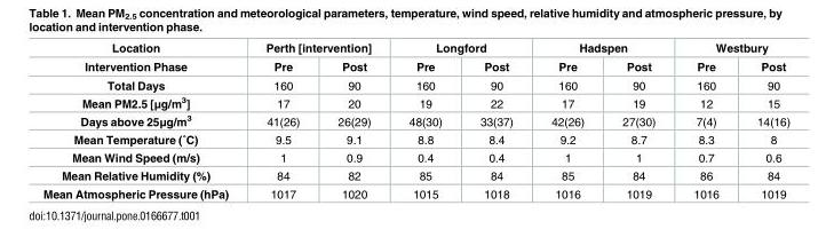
<table><thead><tr><td rowspan="2">Location Intervention Phase</td><td colspan="2">Perth [intervention]</td><td colspan="2">Longford</td><td colspan="2">Hadspen</td><td colspan="2">Westbury</td></tr><tr><td>Pre</td><td>Post</td><td>Pre</td><td>Post</td><td>Pre</td><td>Post</td><td>Pre</td><td>Post</td></tr></thead><tbody><tr><td>Total Days</td><td>160</td><td>90</td><td>160</td><td>90</td><td>160</td><td>90</td><td>160</td><td>90</td></tr><tr><td>Mean PM2.5 [μg/m<sup>3</sup>]</td><td>17</td><td>20</td><td>19</td><td>22</td><td>17</td><td>19</td><td>12</td><td>15</td></tr><tr><td>Days above 25μg/m<sup>3</sup></td><td>41(26)</td><td>26(29)</td><td>48(30)</td><td>33(37)</td><td>42(26)</td><td>27(30)</td><td>7(4)</td><td>14(16)</td></tr><tr><td>Mean Temperature (˚C)</td><td>9.5</td><td>9.1</td><td>8.8</td><td>8.4</td><td>9.2</td><td>8.7</td><td>8.3</td><td>8</td></tr><tr><td>Mean Wind Speed (m/s)</td><td>1</td><td>0.9</td><td>0.4</td><td>0.4</td><td>1</td><td>1</td><td>0.7</td><td>0.6</td></tr><tr><td>Mean Relative Humidity (%)</td><td>84</td><td>82</td><td>85</td><td>84</td><td>85</td><td>84</td><td>86</td><td>84</td></tr><tr><td>Mean Atmospheric Pressure (hPa)</td><td>1017</td><td>1020</td><td>1015</td><td>1018</td><td>1016</td><td>1019</td><td>1016</td><td>1019</td></tr></tbody></table>